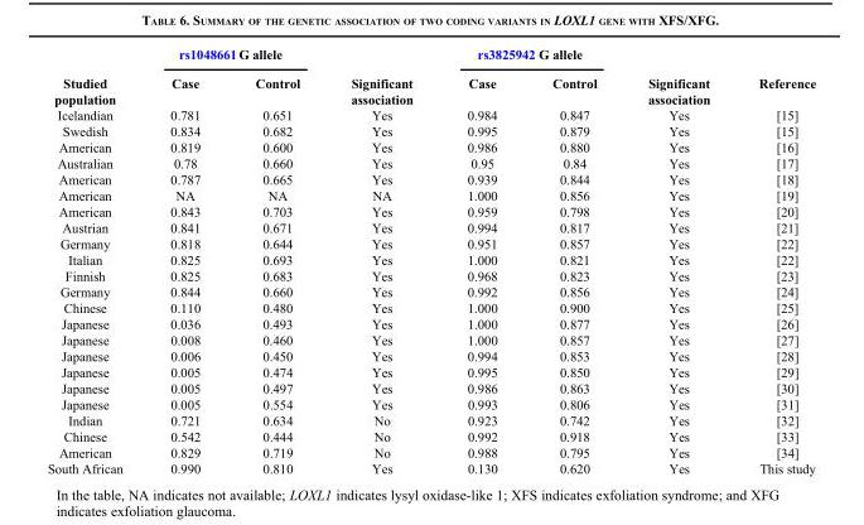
<table><thead><tr><td rowspan="2">Studied population</td><td colspan="2">rs1048661G allele</td><td rowspan="2">Significant association</td><td colspan="2">rs3825942 G allele</td><td rowspan="2">Significant association</td><td rowspan="2">Reference</td></tr><tr><td>Case</td><td>Control</td><td>Case</td><td>Control</td></tr></thead><tbody><tr><td>Icelandian</td><td>0.781</td><td>0.651</td><td>Yes</td><td>0.984</td><td>0.847</td><td>Yes</td><td>[15]</td></tr><tr><td>Swedish</td><td>0.834</td><td>0.682</td><td>Yes</td><td>0.995</td><td>0.879</td><td>Yes</td><td>[15]</td></tr><tr><td>American</td><td>0.819</td><td>0.600</td><td>Yes</td><td>0.986</td><td>0.880</td><td>Yes</td><td>[16]</td></tr><tr><td>Australian</td><td>0.78</td><td>0.660</td><td>Yes</td><td>0.95</td><td>0.84</td><td>Yes</td><td>[17]</td></tr><tr><td>American</td><td>0.787</td><td>0.665</td><td>Yes</td><td>0.939</td><td>0.844</td><td>Yes</td><td>[18]</td></tr><tr><td>American</td><td>NA</td><td>NA</td><td>NA</td><td>1.000</td><td>0.856</td><td>Yes</td><td>[19]</td></tr><tr><td>American</td><td>0.843</td><td>0.703</td><td>Yes</td><td>0.959</td><td>0.798</td><td>Yes</td><td>[20]</td></tr><tr><td>Austrian</td><td>0.841</td><td>0.671</td><td>Yes</td><td>0.994</td><td>0.817</td><td>Yes</td><td>[21]</td></tr><tr><td>Germany</td><td>0.818</td><td>0.644</td><td>Yes</td><td>0.951</td><td>0.857</td><td>Yes</td><td>[22]</td></tr><tr><td>Italian</td><td>0.825</td><td>0.693</td><td>Yes</td><td>1.000</td><td>0.821</td><td>Yes</td><td>[22]</td></tr><tr><td>Finnish</td><td>0.825</td><td>0.683</td><td>Yes</td><td>0.968</td><td>0.823</td><td>Yes</td><td>[23]</td></tr><tr><td>Germany</td><td>0.844</td><td>0.660</td><td>Yes</td><td>0.992</td><td>0.856</td><td>Yes</td><td>[24]</td></tr><tr><td>Chinese</td><td>0.110</td><td>0.480</td><td>Yes</td><td>1.000</td><td>0.900</td><td>Yes</td><td>[25]</td></tr><tr><td>Japanese</td><td>0.036</td><td>0.493</td><td>Yes</td><td>1.000</td><td>0.877</td><td>Yes</td><td>[26]</td></tr><tr><td>Japanese</td><td>0.008</td><td>0.460</td><td>Yes</td><td>1.000</td><td>0.857</td><td>Yes</td><td>[27]</td></tr><tr><td>Japanese</td><td>0.006</td><td>0.450</td><td>Yes</td><td>0.994</td><td>0.853</td><td>Yes</td><td>[28]</td></tr><tr><td>Japanese</td><td>0.005</td><td>0.474</td><td>Yes</td><td>0.995</td><td>0.850</td><td>Yes</td><td>[29]</td></tr><tr><td>Japanese</td><td>0.005</td><td>0.497</td><td>Yes</td><td>0.986</td><td>0.863</td><td>Yes</td><td>[30]</td></tr><tr><td>Japanese</td><td>0.005</td><td>0.554</td><td>Yes</td><td>0.993</td><td>0.806</td><td>Yes</td><td>[31]</td></tr><tr><td>Indian</td><td>0.721</td><td>0.634</td><td>No</td><td>0.923</td><td>0.742</td><td>Yes</td><td>[32]</td></tr><tr><td>Chinese</td><td>0.542</td><td>0.444</td><td>No</td><td>0.992</td><td>0.918</td><td>Yes</td><td>[33]</td></tr><tr><td>American</td><td>0.829</td><td>0.719</td><td>No</td><td>0.988</td><td>0.795</td><td>Yes</td><td>[34]</td></tr><tr><td>South African</td><td>0.990</td><td>0.810</td><td>Yes</td><td>0.130</td><td>0.620</td><td>Yes</td><td>This study</td></tr></tbody></table>